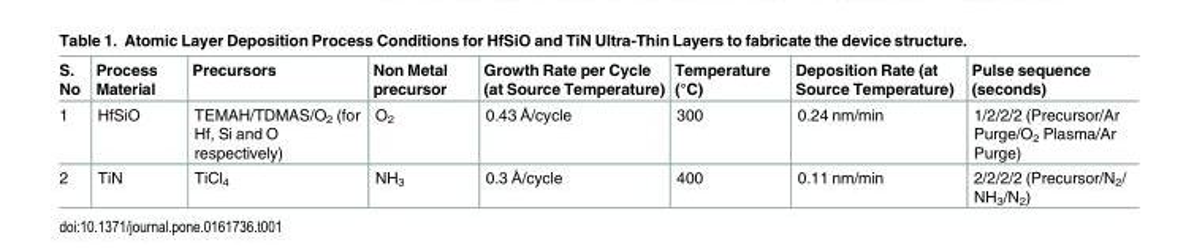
<table><thead><tr><td>S. No</td><td>Process Material</td><td>Precursors</td><td>Non Metal precursor</td><td>Growth Rate per Cycle (at Source Temperature)</td><td>Temperature (°C)</td><td>Deposition Rate (at Source Temperature)</td><td>Pulse sequence (seconds)</td></tr></thead><tbody><tr><td>1</td><td>HfSiO</td><td>TEMAH/TDMAS/O<sub>2</sub> (for Hf, Si and O respectively)</td><td>O<sub>2</sub></td><td>0.43 Å/cycle</td><td>300</td><td>0.24 nm/min</td><td>1/2/2/2 (Precursor/Ar Purge/O<sub>2</sub> Plasma/Ar Purge)</td></tr><tr><td>2</td><td>TiN</td><td>TiCl<sub>4</sub></td><td>NH<sub>3</sub></td><td>0.3 Å/cycle</td><td>400</td><td>0.11 nm/min</td><td>2/2/2/2 (Precursor/N2/</td></tr></tbody></table>